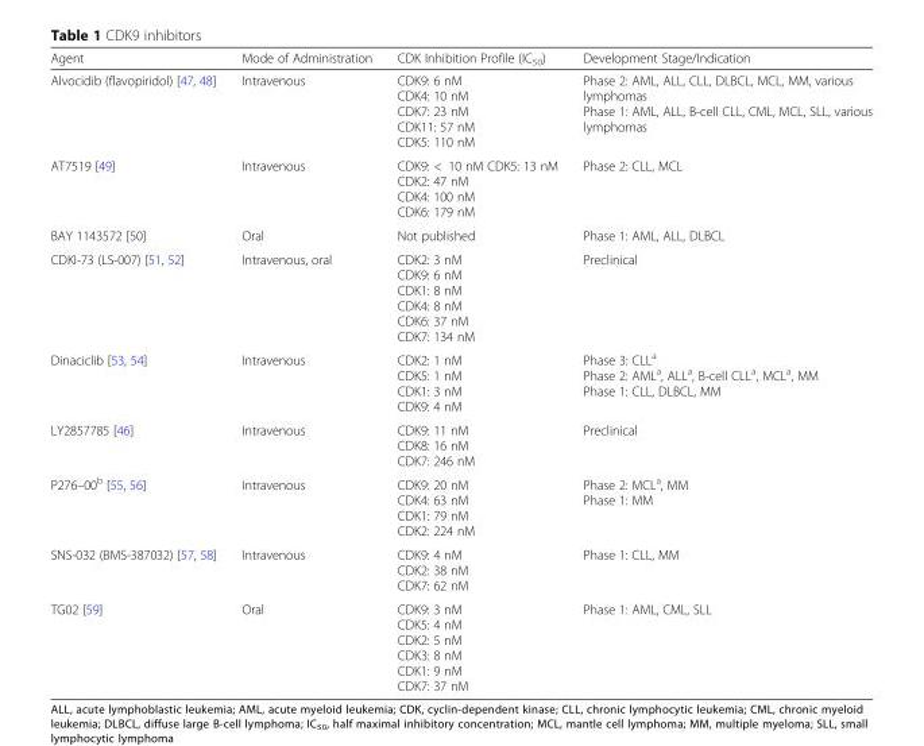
<table><thead><tr><td>Agent</td><td>Mode of Administration</td><td>CDK Inhibition Profile (IC<sub>50</sub>)</td><td>Development Stage/Indication</td></tr></thead><tbody><tr><td>Alvocidib (flavopiridol) [47, 48]</td><td>Intravenous</td><td>CDK9: 6 nM CDK4: 10 nM CDK7: 23 nM CDK11: 57 nM CDK5: 110 nM</td><td>Phase 2: AML, ALL, CLL, DLBCL, MCL, MM, various lymphomas Phase 1: AML, ALL, B-cell CLL, CML, MCL, SLL, various lymphomas</td></tr><tr><td>AT7519 [49]</td><td>Intravenous</td><td>CDK9: &lt; 10 nM CDK5: 13 nM CDK2: 47 nM CDK4: 100 nM CDK6: 179 nM</td><td>Phase 2: CLL, MCL</td></tr><tr><td>BAY 1143572 [50]</td><td>Oral</td><td>Not published</td><td>Phase 1: AML, ALL, DLBCL</td></tr><tr><td>CDKI-73 (LS-007) [51, 52]</td><td>Intravenous, oral</td><td>CDK2: 3 nM CDK9: 6 nM CDK1: 8 nM CDK4: 8 nM CDK6: 37 nM CDK7: 134 nM</td><td>Preclinical</td></tr><tr><td>Dinaciclib [53, 54]</td><td>Intravenous</td><td>CDK2: 1 nM CDK5: 1 nM CDK1: 3 nM CDK9: 4 nM</td><td>Phase 3: CLL<sup>a</sup> Phase 2: AML<sup>a</sup>, ALL<sup>a</sup>, B-cell CLL<sup>a</sup>, MCL<sup>a</sup>, MM Phase 1: CLL, DLBCL, MM</td></tr><tr><td>LY2857785 [46]</td><td>Intravenous</td><td>CDK9: 11 nM CDK8: 16 nM CDK7: 246 nM</td><td>Preclinical</td></tr><tr><td>P276–00<sup>b</sup> [55, 56]</td><td>Intravenous</td><td>CDK9: 20 nM CDK4: 63 nM CDK1: 79 nM CDK2: 224 nM</td><td>Phase 2: MCL<sup>a</sup>, MM Phase 1: MM</td></tr><tr><td>SNS-032 (BMS-387032) [57, 58]</td><td>Intravenous</td><td>CDK9: 4 nM CDK2: 38 nM CDK7: 62 nM</td><td>Phase 1: CLL, MM</td></tr><tr><td>TG02 [59]</td><td>Oral</td><td>CDK9: 3 nM CDK5: 4 nM CDK2: 5 nM CDK3: 8 nM CDK1: 9 nM CDK7: 37 nM</td><td>Phase 1: AML, CML, SLL</td></tr></tbody></table>